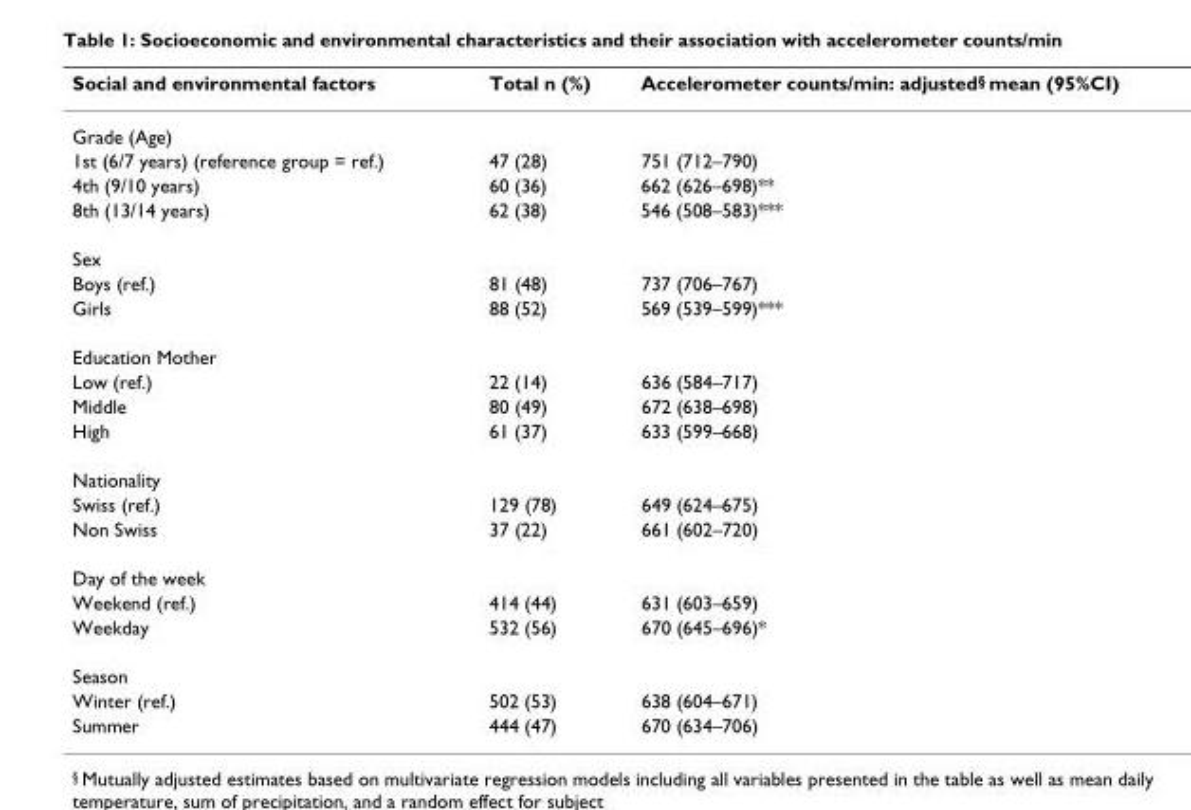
<table><thead><tr><td>Social and environmental factors</td><td>Total n (%)</td><td>Accelerometer counts/min: adjusted<sup>§</sup> mean (95%CI)</td></tr></thead><tbody><tr><td colspan="3">Grade (Age)</td></tr><tr><td>1st (6/7 years) (reference group = ref.)</td><td>47 (28)</td><td>751 (712–790)</td></tr><tr><td>4th (9/10 years)</td><td>60 (36)</td><td>662 (626–698)**</td></tr><tr><td>8th (13/14 years)</td><td>62 (38)</td><td>546 (508–583)***</td></tr><tr><td colspan="3">Sex</td></tr><tr><td>Boys (ref.)</td><td>81 (48)</td><td>737 (706–767)</td></tr><tr><td>Girls</td><td>88 (52)</td><td>569 (539–599)***</td></tr><tr><td colspan="3">Education Mother</td></tr><tr><td>Low (ref.)</td><td>22 (14)</td><td>636 (584–717)</td></tr><tr><td>Middle</td><td>80 (49)</td><td>672 (638–698)</td></tr><tr><td>High</td><td>61 (37)</td><td>633 (599–668)</td></tr><tr><td colspan="3">Nationality</td></tr><tr><td>Swiss (ref.)</td><td>129 (78)</td><td>649 (624–675)</td></tr><tr><td>Non Swiss</td><td>37 (22)</td><td>661 (602–720)</td></tr><tr><td colspan="3">Day of the week</td></tr><tr><td>Weekend (ref.)</td><td>414 (44)</td><td>631 (603–659)</td></tr><tr><td>Weekday</td><td>532 (56)</td><td>670 (645–696)*</td></tr><tr><td colspan="3">Season</td></tr><tr><td>Winter (ref.)</td><td>502 (53)</td><td>638 (604–671)</td></tr><tr><td>Summer</td><td>444 (47)</td><td>670 (634–706)</td></tr></tbody></table>